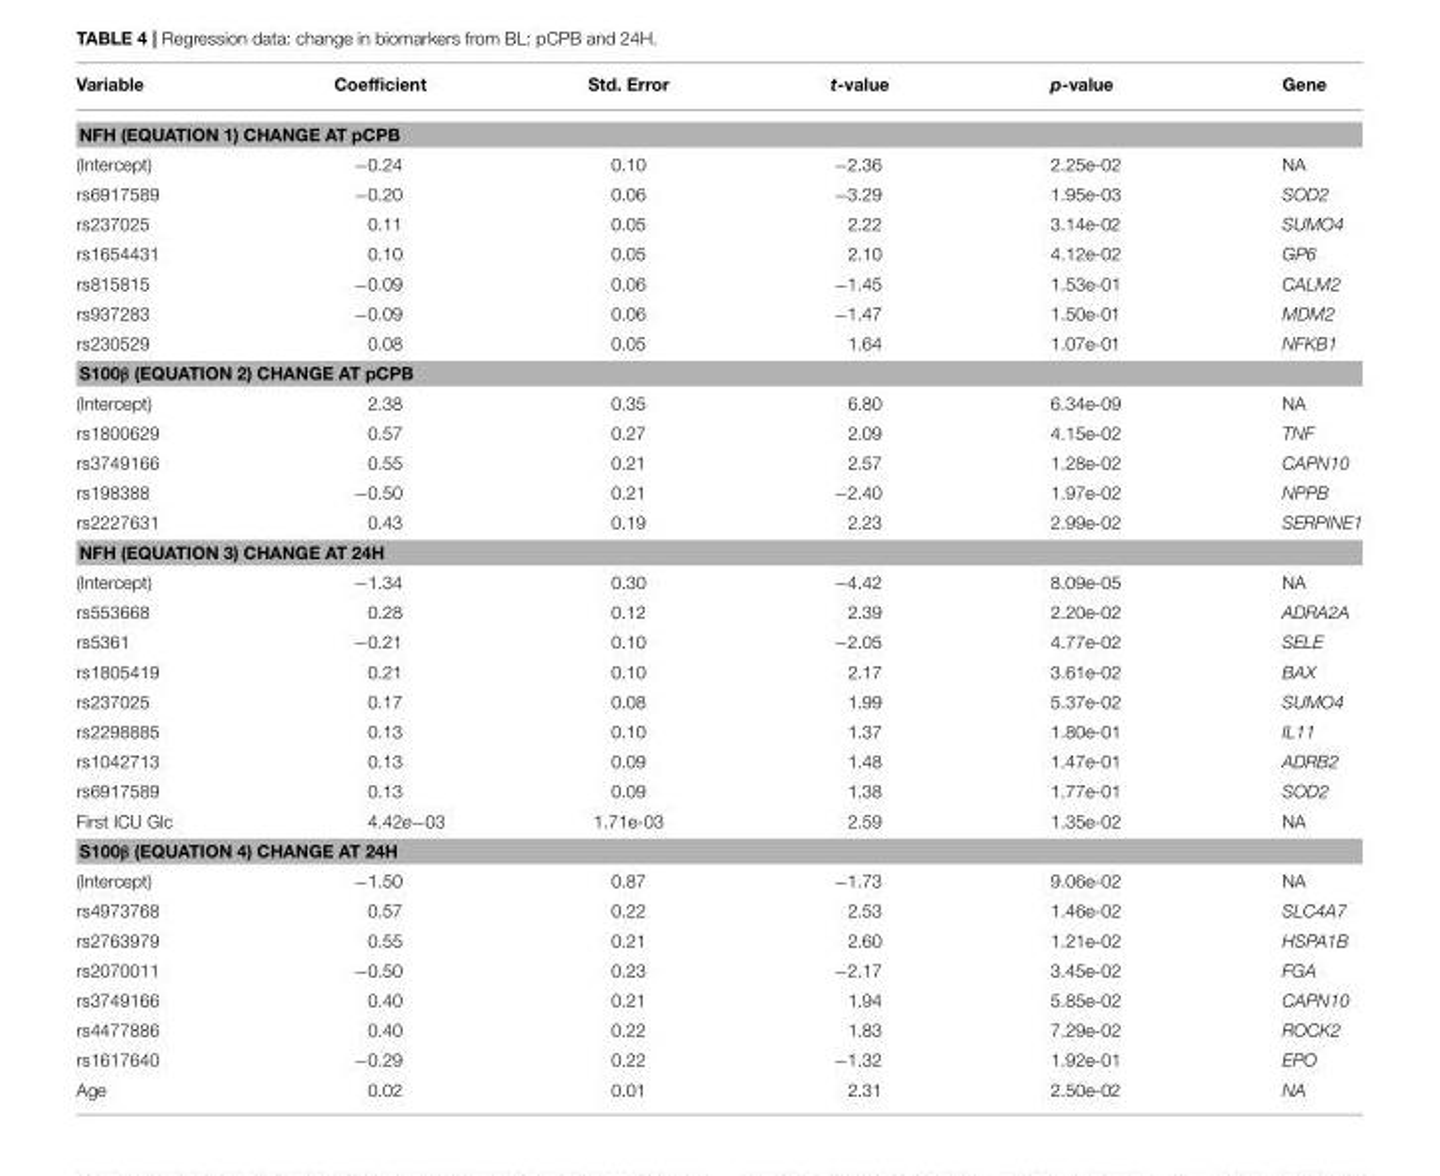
<table><thead><tr><td>Variable</td><td>Coefficient</td><td>Std. Error</td><td>t-value</td><td>p-value</td><td>Gene</td></tr></thead><tbody><tr><td colspan="6">NFH (EQUATION 1) CHANGE AT pCPB</td></tr><tr><td>(Intercept)</td><td>−0.24</td><td>0.10</td><td>−2.36</td><td>2.25e-02</td><td>NA</td></tr><tr><td>rs6917589</td><td>−0.20</td><td>0.06</td><td>−3.29</td><td>1.95e-03</td><td>SOD2</td></tr><tr><td>rs237025</td><td>0.11</td><td>0.05</td><td>2.22</td><td>3.14e-02</td><td>SUMO4</td></tr><tr><td>rs1654431</td><td>0.10</td><td>0.05</td><td>2.10</td><td>4.12e-02</td><td>GP6</td></tr><tr><td>rs815815</td><td>−0.09</td><td>0.06</td><td>−1.45</td><td>1.53e-01</td><td>CALM2</td></tr><tr><td>rs937283</td><td>−0.09</td><td>0.06</td><td>−1.47</td><td>1.50e-01</td><td>MDM2</td></tr><tr><td>rs230529</td><td>0.08</td><td>0.05</td><td>1.64</td><td>1.07e-01</td><td>NFKB1</td></tr><tr><td colspan="6">S100β (EQUATION 2) CHANGE AT pCPB</td></tr><tr><td>(Intercept)</td><td>2.38</td><td>0.35</td><td>6.80</td><td>6.34e-09</td><td>NA</td></tr><tr><td>rs1800629</td><td>0.57</td><td>0.27</td><td>2.09</td><td>4.15e-02</td><td>TNF</td></tr><tr><td>rs3749166</td><td>0.55</td><td>0.21</td><td>2.57</td><td>1.28e-02</td><td>CAPN10</td></tr><tr><td>rs198388</td><td>−0.50</td><td>0.21</td><td>−2.40</td><td>1.97e-02</td><td>NPPB</td></tr><tr><td>rs2227631</td><td>0.43</td><td>0.19</td><td>2.23</td><td>2.99e-02</td><td>SERPINE1</td></tr><tr><td colspan="6">NFH (EQUATION 3) CHANGE AT 24H</td></tr><tr><td>(Intercept)</td><td>−1.34</td><td>0.30</td><td>−4.42</td><td>8.09e-05</td><td>NA</td></tr><tr><td>rs553668</td><td>0.28</td><td>0.12</td><td>2.39</td><td>2.20e-02</td><td>ADRA2A</td></tr><tr><td>rs5361</td><td>−0.21</td><td>0.10</td><td>−2.05</td><td>4.77e-02</td><td>SELE</td></tr><tr><td>rs1805419</td><td>0.21</td><td>0.10</td><td>2.17</td><td>3.61e-02</td><td>BAX</td></tr><tr><td>rs237025</td><td>0.17</td><td>0.08</td><td>1.99</td><td>5.37e-02</td><td>SUMO4</td></tr><tr><td>rs2298885</td><td>0.13</td><td>0.10</td><td>1.37</td><td>1.80e-01</td><td>IL11</td></tr><tr><td>rs1042713</td><td>0.13</td><td>0.09</td><td>1.48</td><td>1.47e-01</td><td>ADRB2</td></tr><tr><td>rs6917589</td><td>0.13</td><td>0.09</td><td>1.38</td><td>1.77e-01</td><td>SOD2</td></tr><tr><td>First ICU Glc</td><td>4.42e−03</td><td>1.71e-03</td><td>2.59</td><td>1.35e-02</td><td>NA</td></tr><tr><td colspan="6">S100β (EQUATION 4) CHANGE AT 24H</td></tr><tr><td>(Intercept)</td><td>−1.50</td><td>0.87</td><td>−1.73</td><td>9.06e-02</td><td>NA</td></tr><tr><td>rs4973768</td><td>0.57</td><td>0.22</td><td>2.53</td><td>1.46e-02</td><td>SLC4A7</td></tr><tr><td>rs2763979</td><td>0.55</td><td>0.21</td><td>2.60</td><td>1.21e-02</td><td>HSPA1B</td></tr><tr><td>rs2070011</td><td>−0.50</td><td>0.23</td><td>−2.17</td><td>3.45e-02</td><td>FGA</td></tr><tr><td>rs3749166</td><td>0.40</td><td>0.21</td><td>1.94</td><td>5.85e-02</td><td>CAPN10</td></tr><tr><td>rs4477886</td><td>0.40</td><td>0.22</td><td>1.83</td><td>7.29e-02</td><td>ROCK2</td></tr><tr><td>rs1617640</td><td>−0.29</td><td>0.22</td><td>−1.32</td><td>1.92e-01</td><td>EPO</td></tr><tr><td>Age</td><td>0.02</td><td>0.01</td><td>2.31</td><td>2.50e-02</td><td>NA</td></tr></tbody></table>